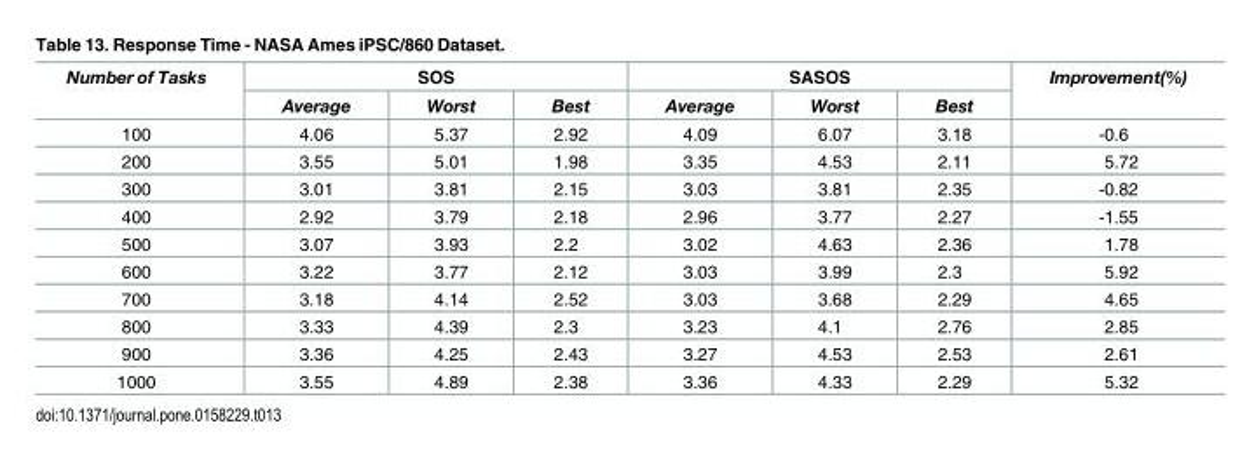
<table><thead><tr><td rowspan="2">Number of Tasks</td><td colspan="3">SOS</td><td colspan="3">SASOS</td><td rowspan="2">Improvement(%)</td></tr><tr><td>Average</td><td>Worst</td><td>Best</td><td>Average</td><td>Worst</td><td>Best</td></tr></thead><tbody><tr><td>100</td><td>4.06</td><td>5.37</td><td>2.92</td><td>4.09</td><td>6.07</td><td>3.18</td><td>-0.6</td></tr><tr><td>200</td><td>3.55</td><td>5.01</td><td>1.98</td><td>3.35</td><td>4.53</td><td>2.11</td><td>5.72</td></tr><tr><td>300</td><td>3.01</td><td>3.81</td><td>2.15</td><td>3.03</td><td>3.81</td><td>2.35</td><td>-0.82</td></tr><tr><td>400</td><td>2.92</td><td>3.79</td><td>2.18</td><td>2.96</td><td>3.77</td><td>2.27</td><td>-1.55</td></tr><tr><td>500</td><td>3.07</td><td>3.93</td><td>2.2</td><td>3.02</td><td>4.63</td><td>2.36</td><td>1.78</td></tr><tr><td>600</td><td>3.22</td><td>3.77</td><td>2.12</td><td>3.03</td><td>3.99</td><td>2.3</td><td>5.92</td></tr><tr><td>700</td><td>3.18</td><td>4.14</td><td>2.52</td><td>3.03</td><td>3.68</td><td>2.29</td><td>4.65</td></tr><tr><td>800</td><td>3.33</td><td>4.39</td><td>2.3</td><td>3.23</td><td>4.1</td><td>2.76</td><td>2.85</td></tr><tr><td>900</td><td>3.36</td><td>4.25</td><td>2.43</td><td>3.27</td><td>4.53</td><td>2.53</td><td>2.61</td></tr><tr><td>1000</td><td>3.55</td><td>4.89</td><td>2.38</td><td>3.36</td><td>4.33</td><td>2.29</td><td>5.32</td></tr></tbody></table>